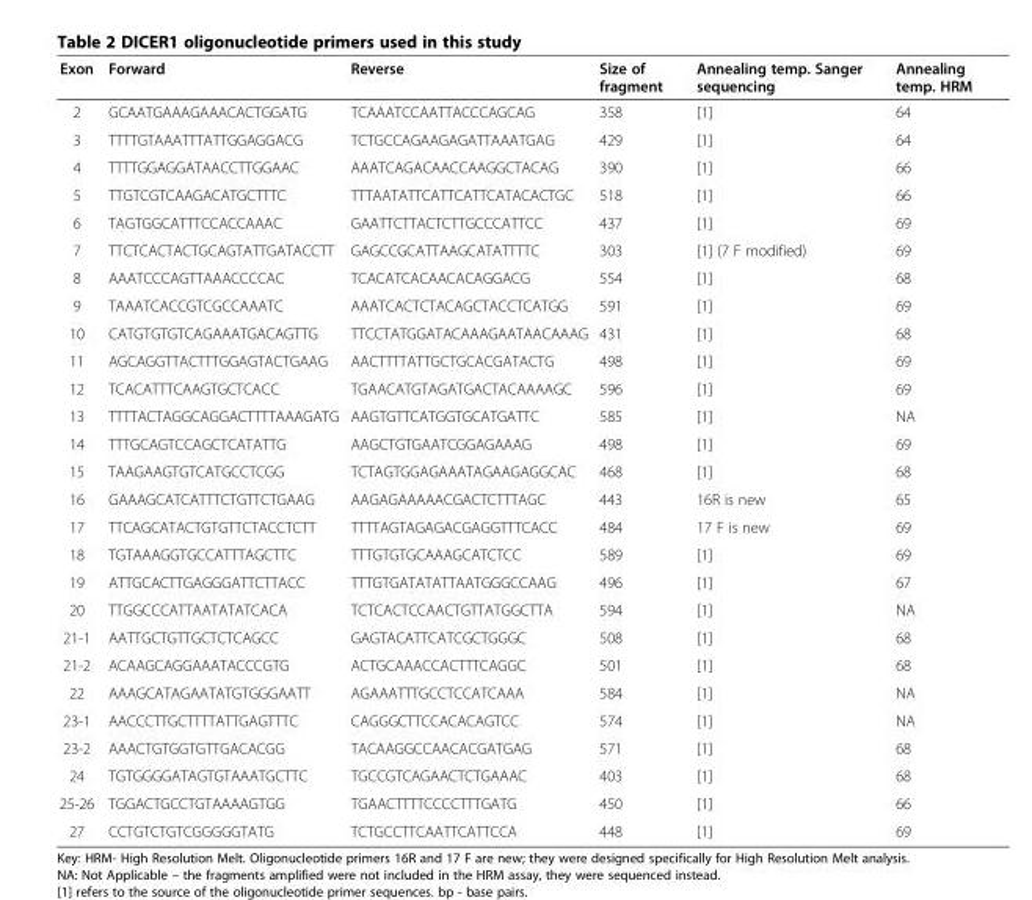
<table><thead><tr><td>Exon</td><td>Forward</td><td>Reverse</td><td>Size of fragment</td><td>Annealing temp. Sanger sequencing</td><td>Annealing temp. HRM</td></tr></thead><tbody><tr><td>2</td><td>GCAATGAAAGAAACACTGGATG</td><td>TCAAATCCAATTACCCAGCAG</td><td>358</td><td>[1]</td><td>64</td></tr><tr><td>3</td><td>TTTTGTAAATTTATTGGAGGACG</td><td>TCTGCCAGAAGAGATTAAATGAG</td><td>429</td><td>[1]</td><td>64</td></tr><tr><td>4</td><td>TTTTGGAGGATAACCTTGGAAC</td><td>AAATCAGACAACCAAGGCTACAG</td><td>390</td><td>[1]</td><td>66</td></tr><tr><td>5</td><td>TTGTCGTCAAGACATGCTTTC</td><td>TTTAATATTCATTCATTCATACACTGC</td><td>518</td><td>[1]</td><td>66</td></tr><tr><td>6</td><td>TAGTGGCATTTCCACCAAAC</td><td>GAATTCTTACTCTTGCCCATTCC</td><td>437</td><td>[1]</td><td>69</td></tr><tr><td>7</td><td>TTCTCACTACTGCAGTATTGATACCTT</td><td>GAGCCGCATTAAGCATATTTTC</td><td>303</td><td>[1] (7 F modified)</td><td>69</td></tr><tr><td>8</td><td>AAATCCCAGTTAAACCCCAC</td><td>TCACATCACAACACAGGACG</td><td>554</td><td>[1]</td><td>68</td></tr><tr><td>9</td><td>TAAATCACCGTCGCCAAATC</td><td>AAATCACTCTACAGCTACCTCATGG</td><td>591</td><td>[1]</td><td>69</td></tr><tr><td>10</td><td>CATGTGTGTCAGAAATGACAGTTG</td><td>TTCCTATGGATACAAAGAATAACAAAG</td><td>431</td><td>[1]</td><td>68</td></tr><tr><td>11</td><td>AGCAGGTTACTTTGGAGTACTGAAG</td><td>AACTTTTATTGCTGCACGATACTG</td><td>498</td><td>[1]</td><td>69</td></tr><tr><td>12</td><td>TCACATTTCAAGTGCTCACC</td><td>TGAACATGTAGATGACTACAAAAGC</td><td>596</td><td>[1]</td><td>69</td></tr><tr><td>13</td><td>TTTTACTAGGCAGGACTTTTAAAGATG</td><td>AAGTGTTCATGGTGCATGATTC</td><td>585</td><td>[1]</td><td>NA</td></tr><tr><td>14</td><td>TTTGCAGTCCAGCTCATATTG</td><td>AAGCTGTGAATCGGAGAAAG</td><td>498</td><td>[1]</td><td>69</td></tr><tr><td>15</td><td>TAAGAAGTGTCATGCCTCGG</td><td>TCTAGTGGAGAAATAGAAGAGGCAC</td><td>468</td><td>[1]</td><td>68</td></tr><tr><td>16</td><td>GAAAGCATCATTTCTGTTCTGAAG</td><td>AAGAGAAAAACGACTCTTTAGC</td><td>443</td><td>16R is new</td><td>65</td></tr><tr><td>17</td><td>TTCAGCATACTGTGTTCTACCTCTT</td><td>TTTTAGTAGAGACGAGGTTTCACC</td><td>484</td><td>17 F is new</td><td>69</td></tr><tr><td>18</td><td>TGTAAAGGTGCCATTTAGCTTC</td><td>TTTGTGTGCAAAGCATCTCC</td><td>589</td><td>[1]</td><td>69</td></tr><tr><td>19</td><td>ATTGCACTTGAGGGATTCTTACC</td><td>TTTGTGATATATTAATGGGCCAAG</td><td>496</td><td>[1]</td><td>67</td></tr><tr><td>20</td><td>TTGGCCCATTAATATATCACA</td><td>TCTCACTCCAACTGTTATGGCTTA</td><td>594</td><td>[1]</td><td>NA</td></tr><tr><td>21-1</td><td>AATTGCTGTTGCTCTCAGCC</td><td>GAGTACATTCATCGCTGGGC</td><td>508</td><td>[1]</td><td>68</td></tr><tr><td>21-2</td><td>ACAAGCAGGAAATACCCGTG</td><td>ACTGCAAACCACTTTCAGGC</td><td>501</td><td>[1]</td><td>68</td></tr><tr><td>22</td><td>AAAGCATAGAATATGTGGGAATT</td><td>AGAAATTTGCCTCCATCAAA</td><td>584</td><td>[1]</td><td>NA</td></tr><tr><td>23-1</td><td>AACCCTTGCTTTTATTGAGTTTC</td><td>CAGGGCTTCCACACAGTCC</td><td>574</td><td>[1]</td><td>NA</td></tr><tr><td>23-2</td><td>AAACTGTGGTGTTGACACGG</td><td>TACAAGGCCAACACGATGAG</td><td>571</td><td>[1]</td><td>68</td></tr><tr><td>24</td><td>TGTGGGGATAGTGTAAATGCTTC</td><td>TGCCGTCAGAACTCTGAAAC</td><td>403</td><td>[1]</td><td>68</td></tr><tr><td>25-26</td><td>TGGACTGCCTGTAAAAGTGG</td><td>TGAACTTTTCCCCTTTGATG</td><td>450</td><td>[1]</td><td>66</td></tr><tr><td>27</td><td>CCTGTCTGTCGGGGGTATG</td><td>TCTGCCTTCAATTCATTCCA</td><td>448</td><td>[1]</td><td>69</td></tr></tbody></table>